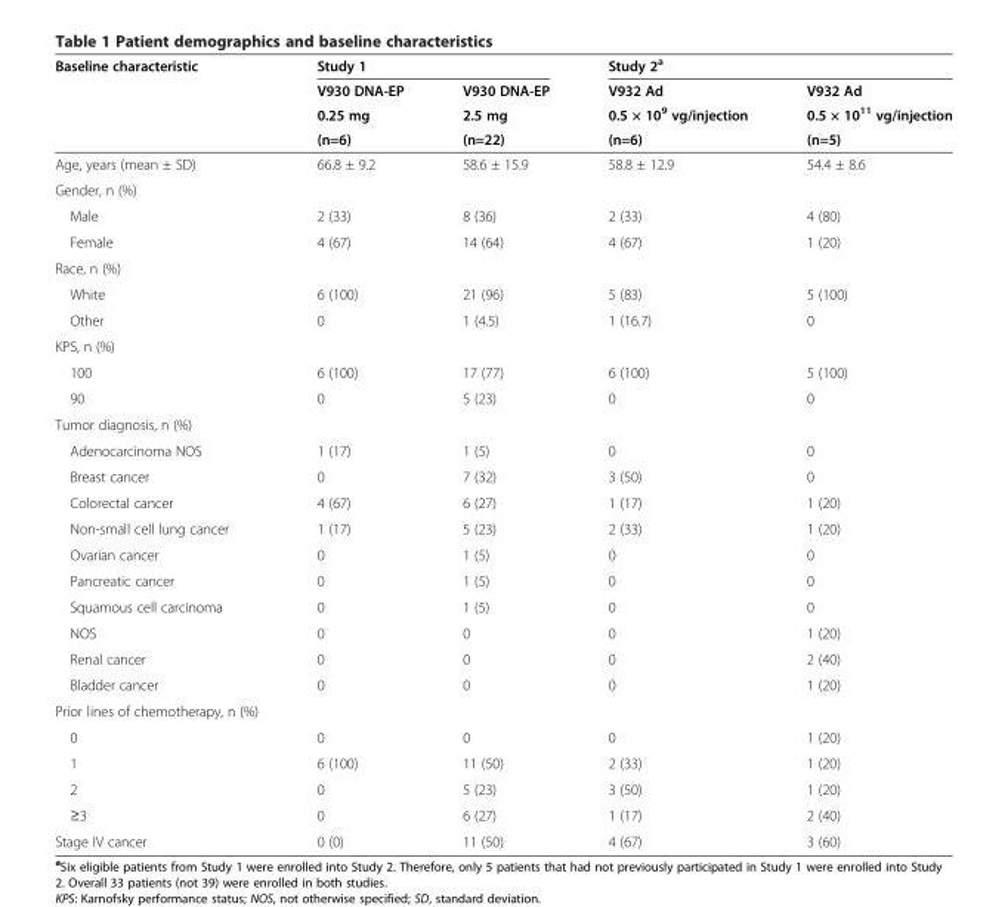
<table><thead><tr><td rowspan="4">Baseline characteristic</td><td colspan="2">Study 1</td><td colspan="2">Study 2<sup>a</sup></td></tr><tr><td rowspan="3">V930 DNA-EP 0.25 mg (n=6)</td><td rowspan="3">V930 DNA-EP 2.5 mg (n=22)</td><td rowspan="3">V932 Ad 0.5 × 10<sup>9</sup> vg/injection (n=6)</td><td rowspan="3">V932 Ad 0.5 × 10<sup>11</sup> vg/injection (n=5)</td></tr><tr></tr><tr></tr></thead><tbody><tr><td>Age, years (mean ± SD)</td><td>66.8 ± 9.2</td><td>58.6 ± 15.9</td><td>58.8 ± 12.9</td><td>54.4 ± 8.6</td></tr><tr><td colspan="5">Gender, n (%)</td></tr><tr><td>Male</td><td>2 (33)</td><td>8 (36)</td><td>2 (33)</td><td>4 (80)</td></tr><tr><td>Female</td><td>4 (67)</td><td>14 (64)</td><td>4 (67)</td><td>1 (20)</td></tr><tr><td colspan="5">Race, n (%)</td></tr><tr><td>White</td><td>6 (100)</td><td>21 (96)</td><td>5 (83)</td><td>5 (100)</td></tr><tr><td>Other</td><td>0</td><td>1 (4.5)</td><td>1 (16.7)</td><td>0</td></tr><tr><td colspan="5">KPS, n (%)</td></tr><tr><td>100</td><td>6 (100)</td><td>17 (77)</td><td>6 (100)</td><td>5 (100)</td></tr><tr><td>90</td><td>0</td><td>5 (23)</td><td>0</td><td>0</td></tr><tr><td colspan="5">Tumor diagnosis, n (%)</td></tr><tr><td>Adenocarcinoma NOS</td><td>1 (17)</td><td>1 (5)</td><td>0</td><td>0</td></tr><tr><td>Breast cancer</td><td>0</td><td>7 (32)</td><td>3 (50)</td><td>0</td></tr><tr><td>Colorectal cancer</td><td>4 (67)</td><td>6 (27)</td><td>1 (17)</td><td>1 (20)</td></tr><tr><td>Non-small cell lung cancer</td><td>1 (17)</td><td>5 (23)</td><td>2 (33)</td><td>1 (20)</td></tr><tr><td>Ovarian cancer</td><td>0</td><td>1 (5)</td><td>0</td><td>0</td></tr><tr><td>Pancreatic cancer</td><td>0</td><td>1 (5)</td><td>0</td><td>0</td></tr><tr><td>Squamous cell carcinoma</td><td>0</td><td>1 (5)</td><td>0</td><td>0</td></tr><tr><td>NOS</td><td>0</td><td>0</td><td>0</td><td>1 (20)</td></tr><tr><td>Renal cancer</td><td>0</td><td>0</td><td>0</td><td>2 (40)</td></tr><tr><td>Bladder cancer</td><td>0</td><td>0</td><td>0</td><td>1 (20)</td></tr><tr><td colspan="5">Prior lines of chemotherapy, n (%)</td></tr><tr><td>0</td><td>0</td><td>0</td><td>0</td><td>1 (20)</td></tr><tr><td>1</td><td>6 (100)</td><td>11 (50)</td><td>2 (33)</td><td>1 (20)</td></tr><tr><td>2</td><td>0</td><td>5 (23)</td><td>3 (50)</td><td>1 (20)</td></tr><tr><td>≥3</td><td>0</td><td>6 (27)</td><td>1 (17)</td><td>2 (40)</td></tr><tr><td>Stage IV cancer</td><td>0 (0)</td><td>11 (50)</td><td>4 (67)</td><td>3 (60)</td></tr></tbody></table>